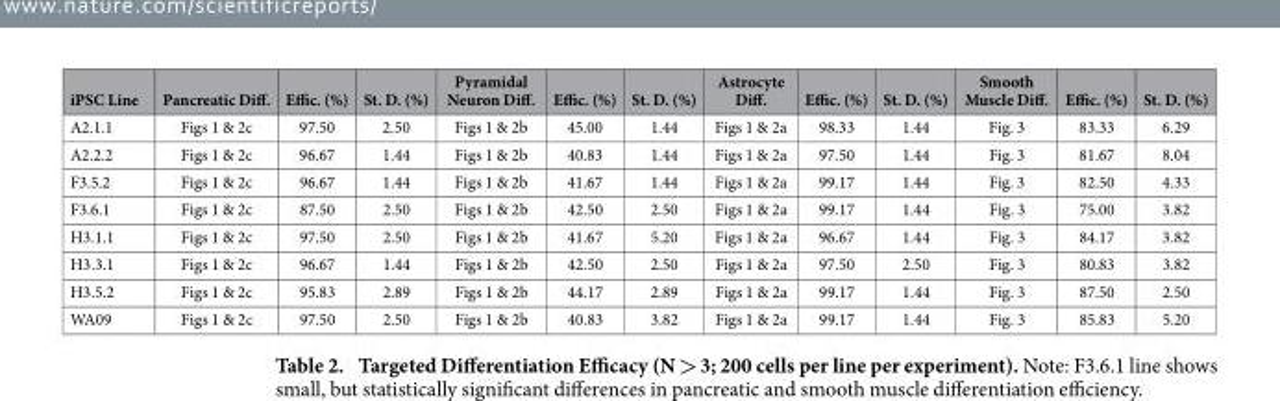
<table><thead><tr><td>iPSC Line</td><td>Pancreatic Diff.</td><td>Effic. (%)</td><td>St. D. (%)</td><td>Pyramidal Neuron Diff.</td><td>Effic. (%)</td><td>St. D. (%)</td><td>Astrocyte Diff.</td><td>Effic. (%)</td><td>St. D. (%)</td><td>Smooth Muscle Diff.</td><td>Effic. (%)</td><td>St. D. (%)</td></tr></thead><tbody><tr><td>A2.1.1</td><td>Figs 1 &amp; 2c</td><td>97.50</td><td>2.50</td><td>Figs 1 &amp; 2b</td><td>45.00</td><td>1.44</td><td>Figs 1 &amp; 2a</td><td>98.33</td><td>1.44</td><td>Fig. 3</td><td>83.33</td><td>6.29</td></tr><tr><td>A2.2.2</td><td>Figs 1 &amp; 2c</td><td>96.67</td><td>1.44</td><td>Figs 1 &amp; 2b</td><td>40.83</td><td>1.44</td><td>Figs 1 &amp; 2a</td><td>97.50</td><td>1.44</td><td>Fig. 3</td><td>81.67</td><td>8.04</td></tr><tr><td>F3.5.2</td><td>Figs 1 &amp; 2c</td><td>96.67</td><td>1.44</td><td>Figs 1 &amp; 2b</td><td>41.67</td><td>1.44</td><td>Figs 1 &amp; 2a</td><td>99.17</td><td>1.44</td><td>Fig. 3</td><td>82.50</td><td>4.33</td></tr><tr><td>F3.6.1</td><td>Figs 1 &amp; 2c</td><td>87.50</td><td>2.50</td><td>Figs 1 &amp; 2b</td><td>42.50</td><td>2.50</td><td>Figs 1 &amp; 2a</td><td>99.17</td><td>1.44</td><td>Fig. 3</td><td>75.00</td><td>3.82</td></tr><tr><td>H3.1.1</td><td>Figs 1 &amp; 2c</td><td>97.50</td><td>2.50</td><td>Figs 1 &amp; 2b</td><td>41.67</td><td>5.20</td><td>Figs 1 &amp; 2a</td><td>96.67</td><td>1.44</td><td>Fig. 3</td><td>84.17</td><td>3.82</td></tr><tr><td>H3.3.1</td><td>Figs 1 &amp; 2c</td><td>96.67</td><td>1.44</td><td>Figs 1 &amp; 2b</td><td>42.50</td><td>2.50</td><td>Figs 1 &amp; 2a</td><td>97.50</td><td>2.50</td><td>Fig. 3</td><td>80.83</td><td>3.82</td></tr><tr><td>H3.5.2</td><td>Figs 1 &amp; 2c</td><td>95.83</td><td>2.89</td><td>Figs 1 &amp; 2b</td><td>44.17</td><td>2.89</td><td>Figs 1 &amp; 2a</td><td>99.17</td><td>1.44</td><td>Fig. 3</td><td>87.50</td><td>2.50</td></tr><tr><td>WA09</td><td>Figs 1 &amp; 2c</td><td>97.50</td><td>2.50</td><td>Figs 1 &amp; 2b</td><td>40.83</td><td>3.82</td><td>Figs 1 &amp; 2a</td><td>99.17</td><td>1.44</td><td>Fig. 3</td><td>85.83</td><td>5.20</td></tr></tbody></table>